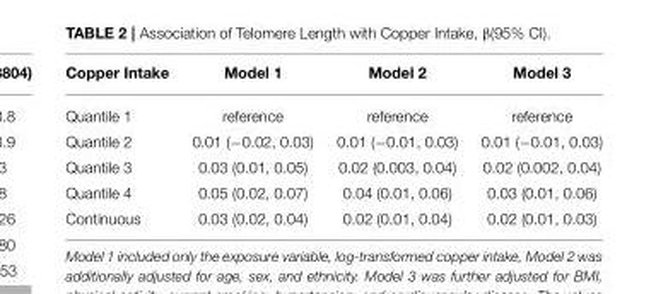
<table><thead><tr><td>Copper Intake</td><td>Model 1</td><td>Model 2</td><td>Model 3</td></tr></thead><tbody><tr><td>Quantile 1</td><td>reference</td><td>reference</td><td>reference</td></tr><tr><td>Quantile 2</td><td>0.01 (−0.02, 0.03)</td><td>0.01 (−0.01, 0.03)</td><td>0.01 (−0.01, 0.03)</td></tr><tr><td>Quantile 3</td><td>0.03 (0.01, 0.05)</td><td>0.02 (0.003, 0.04)</td><td>0.02 (0.002, 0.04)</td></tr><tr><td>Quantile 4</td><td>0.05 (0.02, 0.07)</td><td>0.04 (0.01, 0.06)</td><td>0.03 (0.01, 0.06)</td></tr><tr><td>Continuous</td><td>0.03 (0.02, 0.04)</td><td>0.02 (0.01, 0.04)</td><td>0.02 (0.01, 0.03)</td></tr></tbody></table>